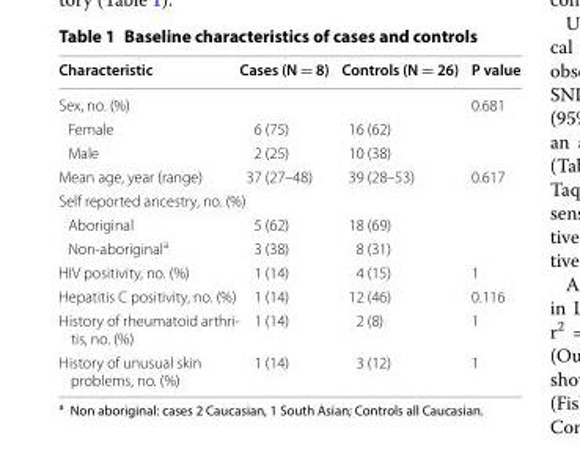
<table><thead><tr><td>Characteristic</td><td>Cases (N = 8)</td><td>Controls (N = 26)</td><td>P value</td></tr></thead><tbody><tr><td>Sex, no. (%)</td><td></td><td></td><td>0.681</td></tr><tr><td>Female</td><td>6 (75)</td><td>16 (62)</td><td></td></tr><tr><td>Male</td><td>2 (25)</td><td>10 (38)</td><td></td></tr><tr><td>Mean age, year (range)</td><td>37 (27–48)</td><td>39 (28–53)</td><td>0.617</td></tr><tr><td colspan="4">Self reported ancestry, no. (%)</td></tr><tr><td>Aboriginal</td><td>5 (62)</td><td>18 (69)</td><td></td></tr><tr><td>Non-aboriginal<sup>a</sup></td><td>3 (38)</td><td>8 (31)</td><td></td></tr><tr><td>HIV positivity, no. (%)</td><td>1 (14)</td><td>4 (15)</td><td>1</td></tr><tr><td>Hepatitis C positivity, no. (%)</td><td>1 (14)</td><td>12 (46)</td><td>0.116</td></tr><tr><td>History of rheumatoid arthri- tis, no. (%)</td><td>1 (14)</td><td>2 (8)</td><td>1</td></tr><tr><td>History of unusual skin problems, no. (%)</td><td>1 (14)</td><td>3 (12)</td><td>1</td></tr></tbody></table>